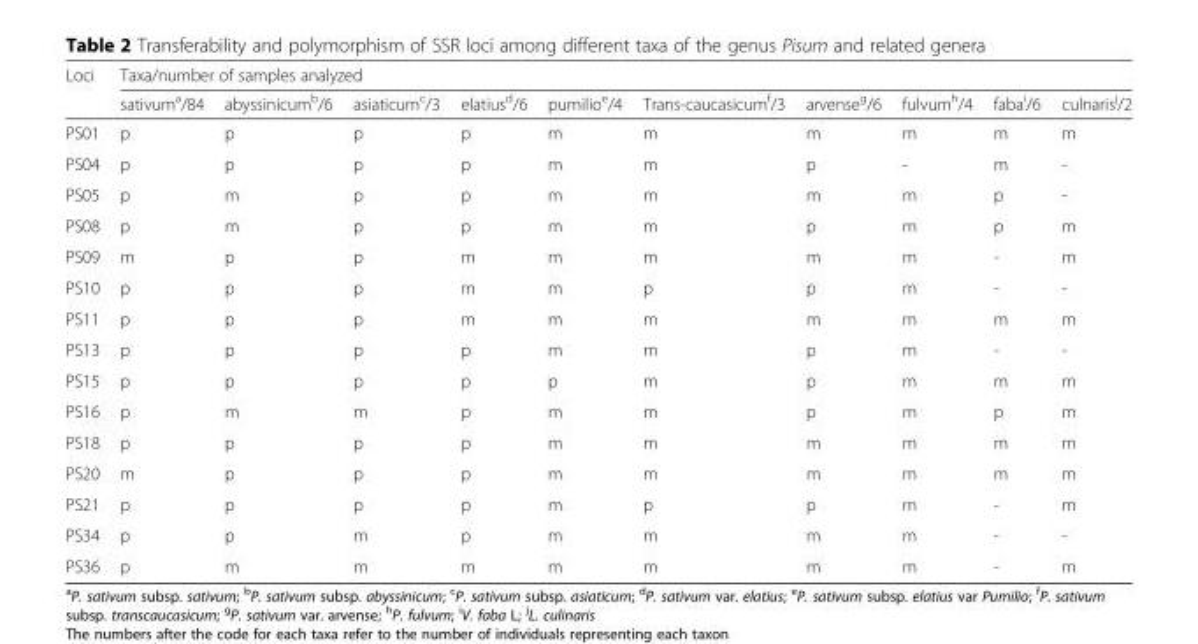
<table><thead><tr><td rowspan="2">Loci</td><td colspan="10">Taxa/number of samples analyzed</td></tr><tr><td>sativum<sup>a</sup>/84</td><td>abyssinicum<sup>b</sup>/6</td><td>asiaticum<sup>c</sup>/3</td><td>elatius<sup>d</sup>/6</td><td>pumilio<sup>e</sup>/4</td><td>Trans-caucasicum<sup>f</sup>/3</td><td>arvense<sup>g</sup>/6</td><td>fulvum<sup>h</sup>/4</td><td>faba<sup>i</sup>/6</td><td>culnaris<sup>j</sup>/2</td></tr></thead><tbody><tr><td>PS01</td><td>p</td><td>p</td><td>p</td><td>p</td><td>m</td><td>m</td><td>m</td><td>m</td><td>m</td><td>m</td></tr><tr><td>PS04</td><td>p</td><td>p</td><td>p</td><td>p</td><td>m</td><td>m</td><td>p</td><td>-</td><td>m</td><td>-</td></tr><tr><td>PS05</td><td>p</td><td>m</td><td>p</td><td>p</td><td>m</td><td>m</td><td>m</td><td>m</td><td>p</td><td>-</td></tr><tr><td>PS08</td><td>p</td><td>m</td><td>p</td><td>p</td><td>m</td><td>m</td><td>p</td><td>m</td><td>p</td><td>m</td></tr><tr><td>PS09</td><td>m</td><td>p</td><td>p</td><td>m</td><td>m</td><td>m</td><td>m</td><td>m</td><td>-</td><td>m</td></tr><tr><td>PS10</td><td>p</td><td>p</td><td>p</td><td>m</td><td>m</td><td>p</td><td>p</td><td>m</td><td>-</td><td>-</td></tr><tr><td>PS11</td><td>p</td><td>p</td><td>p</td><td>m</td><td>m</td><td>m</td><td>m</td><td>m</td><td>m</td><td>m</td></tr><tr><td>PS13</td><td>p</td><td>p</td><td>p</td><td>p</td><td>m</td><td>m</td><td>p</td><td>m</td><td>-</td><td>-</td></tr><tr><td>PS15</td><td>p</td><td>p</td><td>p</td><td>p</td><td>p</td><td>m</td><td>p</td><td>m</td><td>m</td><td>m</td></tr><tr><td>PS16</td><td>p</td><td>m</td><td>m</td><td>p</td><td>m</td><td>m</td><td>p</td><td>m</td><td>p</td><td>m</td></tr><tr><td>PS18</td><td>p</td><td>p</td><td>p</td><td>p</td><td>m</td><td>m</td><td>m</td><td>m</td><td>m</td><td>m</td></tr><tr><td>PS20</td><td>m</td><td>p</td><td>p</td><td>p</td><td>m</td><td>m</td><td>m</td><td>m</td><td>m</td><td>m</td></tr><tr><td>PS21</td><td>p</td><td>p</td><td>p</td><td>p</td><td>m</td><td>p</td><td>p</td><td>m</td><td>-</td><td>m</td></tr><tr><td>PS34</td><td>p</td><td>p</td><td>m</td><td>p</td><td>m</td><td>m</td><td>m</td><td>m</td><td>-</td><td>-</td></tr><tr><td>PS36</td><td>p</td><td>m</td><td>m</td><td>m</td><td>m</td><td>m</td><td>m</td><td>m</td><td>-</td><td>m</td></tr></tbody></table>